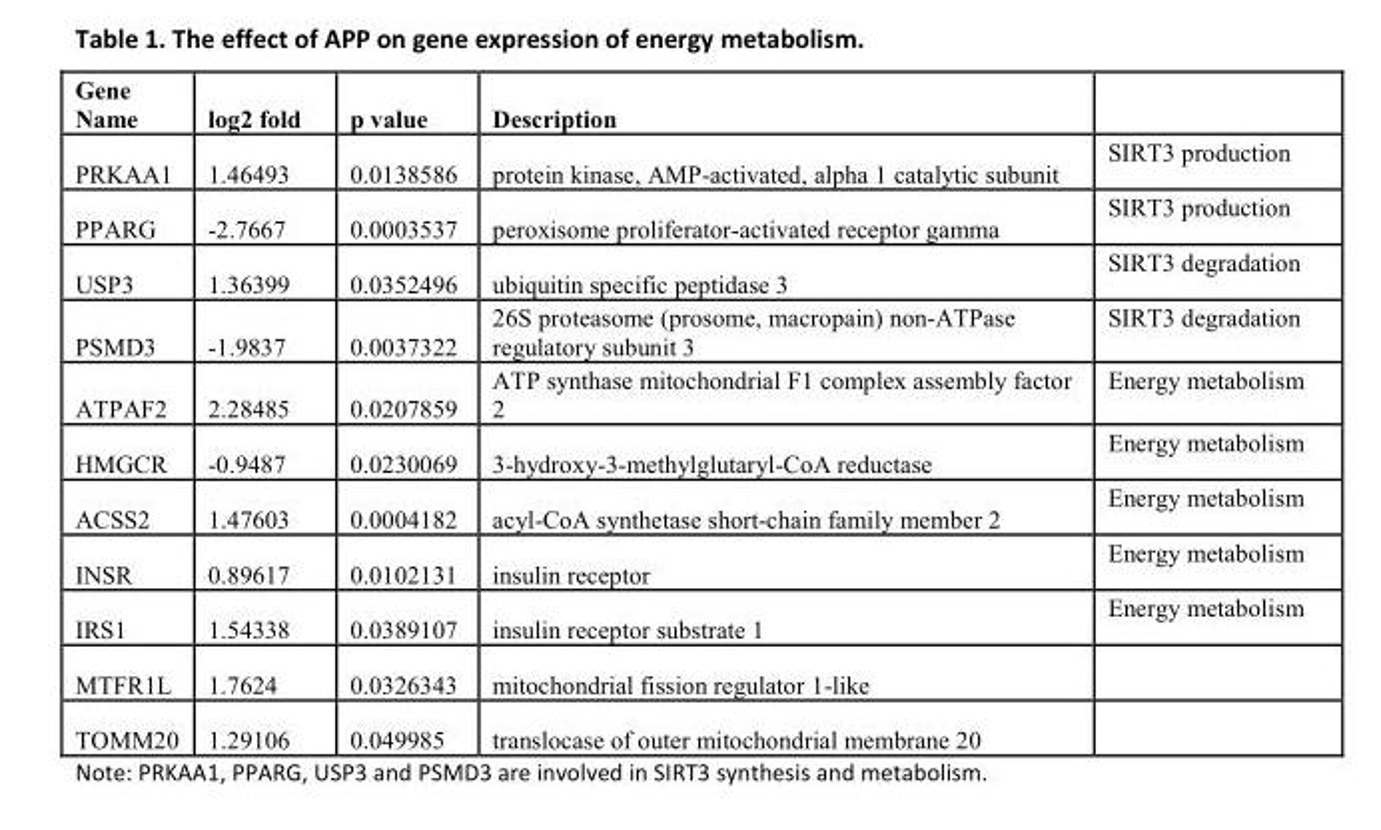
<table><tbody><tr><td>Gene Name</td><td>log2 fold</td><td>p value</td><td>Description</td><td></td></tr><tr><td>PRKAA1</td><td>1.46493</td><td>0.0138586</td><td>protein kinase, AMP-activated, alpha 1 catalytic subunit</td><td>SIRT3 production</td></tr><tr><td>PPARG</td><td>-2.7667</td><td>0.0003537</td><td>peroxisome proliferator-activated receptor gamma</td><td>SIRT3 production</td></tr><tr><td>USP3</td><td>1.36399</td><td>0.0352496</td><td>ubiquitin specific peptidase 3</td><td>SIRT3 degradation</td></tr><tr><td>PSMD3</td><td>-1.9837</td><td>0.0037322</td><td>26S proteasome (prosome, macropain) non-ATPase regulatory subunit 3</td><td>SIRT3 degradation</td></tr><tr><td>ATPAF2</td><td>2.28485</td><td>0.0207859</td><td>ATP synthase mitochondrial F1 complex assembly factor 2</td><td>Energy metabolism</td></tr><tr><td>HMGCR</td><td>-0.9487</td><td>0.0230069</td><td>3-hydroxy-3-methylglutaryl-CoA reductase</td><td>Energy metabolism</td></tr><tr><td>ACSS2</td><td>1.47603</td><td>0.0004182</td><td>acyl-CoA synthetase short-chain family member 2</td><td>Energy metabolism</td></tr><tr><td>INSR</td><td>0.89617</td><td>0.0102131</td><td>insulin receptor</td><td>Energy metabolism</td></tr><tr><td>IRS1</td><td>1.54338</td><td>0.0389107</td><td>insulin receptor substrate 1</td><td>Energy metabolism</td></tr><tr><td>MTFR1L</td><td>1.7624</td><td>0.0326343</td><td>mitochondrial fission regulator 1-like</td><td></td></tr><tr><td>TOMM20</td><td>1.29106</td><td>0.049985</td><td>translocase of outer mitochondrial membrane 20</td><td></td></tr></tbody></table>